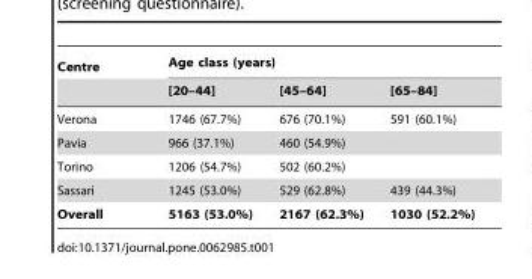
<table><thead><tr><td rowspan="2">Centre</td><td colspan="3">Age class (years)</td></tr><tr><td>[20–44]</td><td>[45–64]</td><td>[65–84]</td></tr></thead><tbody><tr><td>Verona</td><td>1746 (67.7%)</td><td>676 (70.1%)</td><td>591 (60.1%)</td></tr><tr><td>Pavia</td><td>966 (37.1%)</td><td>460 (54.9%)</td><td></td></tr><tr><td>Torino</td><td>1206 (54.7%)</td><td>502 (60.2%)</td><td></td></tr><tr><td>Sassari</td><td>1245 (53.0%)</td><td>529 (62.8%)</td><td>439 (44.3%)</td></tr><tr><td>Overall</td><td>5163 (53.0%)</td><td>2167 (62.3%)</td><td>1030 (52.2%)</td></tr></tbody></table>